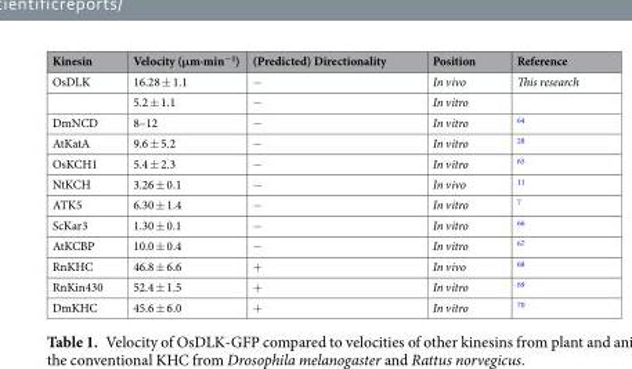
<table><thead><tr><td>Kinesin</td><td>Velocity (μm·min<sup>−1</sup>)</td><td>(Predicted) Directionality</td><td>Position</td><td>Reference</td></tr></thead><tbody><tr><td rowspan="2">OsDLK</td><td>16.28 ± 1.1</td><td>−</td><td>In vivo</td><td>This research</td></tr><tr><td>5.2 ± 1.1</td><td>−</td><td>In vitro</td><td></td></tr><tr><td>DmNCD</td><td>8–12</td><td>−</td><td>In vitro</td><td><sup>64</sup></td></tr><tr><td>AtKatA</td><td>9.6 ± 5.2</td><td>−</td><td>In vitro</td><td><sup>28</sup></td></tr><tr><td>OsKCH1</td><td>5.4 ± 2.3</td><td>−</td><td>In vitro</td><td><sup>65</sup></td></tr><tr><td>NtKCH</td><td>3.26 ± 0.1</td><td>−</td><td>In vivo</td><td><sup>11</sup></td></tr><tr><td>ATK5</td><td>6.30 ± 1.4</td><td>−</td><td>In vitro</td><td><sup>7</sup></td></tr><tr><td>ScKar3</td><td>1.30 ± 0.1</td><td>−</td><td>In vitro</td><td><sup>66</sup></td></tr><tr><td>AtKCBP</td><td>10.0 ± 0.4</td><td>−</td><td>In vitro</td><td><sup>67</sup></td></tr><tr><td>RnKHC</td><td>46.8 ± 6.6</td><td>+</td><td>In vivo</td><td><sup>68</sup></td></tr><tr><td>RnKin430</td><td>52.4 ± 1.5</td><td>+</td><td>In vitro</td><td><sup>69</sup></td></tr><tr><td>DmKHC</td><td>45.6 ± 6.0</td><td>+</td><td>In vitro</td><td><sup>70</sup></td></tr></tbody></table>